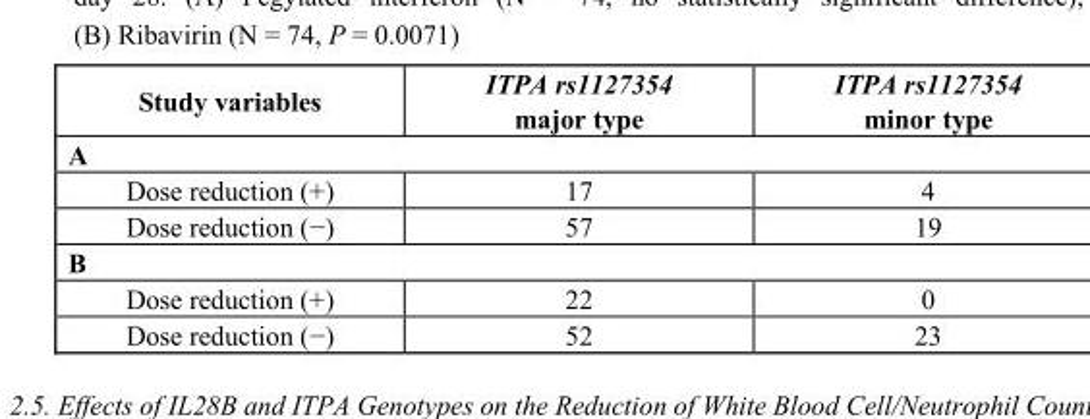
<table><thead><tr><td>Study variables</td><td>ITPA rs1127354 major type</td><td>ITPA rs1127354 minor type</td></tr></thead><tbody><tr><td colspan="3">A</td></tr><tr><td>Dose reduction (+)</td><td>17</td><td>4</td></tr><tr><td>Dose reduction (−)</td><td>57</td><td>19</td></tr><tr><td colspan="3">B</td></tr><tr><td>Dose reduction (+)</td><td>22</td><td>0</td></tr><tr><td>Dose reduction (−)</td><td>52</td><td>23</td></tr></tbody></table>